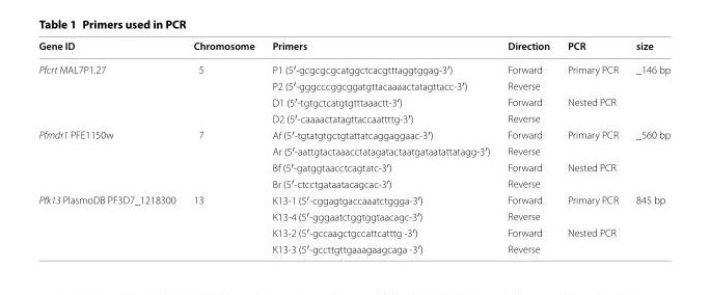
<table><thead><tr><td>Gene ID</td><td>Chromosome</td><td>Primers</td><td>Direction</td><td>PCR</td><td>size</td></tr></thead><tbody><tr><td rowspan="4">Pfcrt MAL7P1.27</td><td rowspan="4">5</td><td>P1 (5′-gcgcgcgcatggctcacgtttaggtggag-3′)</td><td>Forward</td><td rowspan="2">Primary PCR</td><td rowspan="4">_146 bp</td></tr><tr><td>P2 (5′-gggcccggcggatgttacaaaactatagttacc-3′)</td><td>Reverse</td></tr><tr><td>D1 (5′-tgtgctcatgtgtttaaactt-3′)</td><td>Forward</td><td rowspan="2">Nested PCR</td></tr><tr><td>D2 (5′-caaaactatagttaccaattttg-3′)</td><td>Reverse</td></tr><tr><td rowspan="4">Pfmdr1 PFE1150w</td><td rowspan="4">7</td><td>Af (5′-tgtatgtgctgtattatcaggaggaac-3′)</td><td>Forward</td><td rowspan="2">Primary PCR</td><td rowspan="4">_560 bp</td></tr><tr><td>Ar (5′-aattgtactaaacctatagatactaatgataatattatagg-3′)</td><td>Reverse</td></tr><tr><td>Bf (5′-gatggtaacctcagtatc-3′)</td><td>Forward</td><td rowspan="2">Nested PCR</td></tr><tr><td>Br (5′-ctcctgataatacagcac-3′)</td><td>Reverse</td></tr><tr><td rowspan="4">Pfk13 PlasmoDB PF3D7_1218300</td><td rowspan="4">13</td><td>K13-1 (5′-cggagtgaccaaatctggga-3′)</td><td>Forward</td><td rowspan="2">Primary PCR</td><td rowspan="4">845 bp</td></tr><tr><td>K13-4 (5′-gggaatctggtggtaacagc-3′)</td><td>Reverse</td></tr><tr><td>K13-2 (5′-gccaagctgccattcatttg -3′)</td><td>Forward</td><td rowspan="2">Nested PCR</td></tr><tr><td>K13-3 (5′-gccttgttgaaagaagcaga -3′)</td><td>Reverse</td></tr></tbody></table>